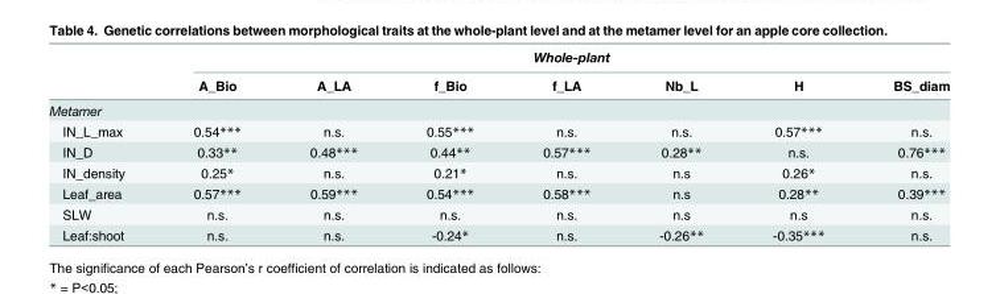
<table><thead><tr><td rowspan="2"></td><td colspan="7">Whole-plant</td></tr><tr><td>A_Bio</td><td>A_LA</td><td>f_Bio</td><td>f_LA</td><td>Nb_L</td><td>H</td><td>BS_diam</td></tr></thead><tbody><tr><td colspan="8">Metamer</td></tr><tr><td>IN_L_max</td><td>0.54***</td><td>n.s.</td><td>0.55***</td><td>n.s.</td><td>n.s.</td><td>0.57***</td><td>n.s.</td></tr><tr><td>IN_D</td><td>0.33**</td><td>0.48***</td><td>0.44**</td><td>0.57***</td><td>0.28**</td><td>n.s.</td><td>0.76***</td></tr><tr><td>IN_density</td><td>0.25*</td><td>n.s.</td><td>0.21*</td><td>n.s.</td><td>n.s</td><td>0.26*</td><td>n.s.</td></tr><tr><td>Leaf_area</td><td>0.57***</td><td>0.59***</td><td>0.54***</td><td>0.58***</td><td>n.s</td><td>0.28**</td><td>0.39***</td></tr><tr><td>SLW</td><td>n.s.</td><td>n.s.</td><td>n.s.</td><td>n.s.</td><td>n.s</td><td>n.s</td><td>n.s.</td></tr><tr><td>Leaf:shoot</td><td>n.s.</td><td>n.s.</td><td>-0.24*</td><td>n.s.</td><td>-0.26**</td><td>-0.35***</td><td>n.s.</td></tr></tbody></table>